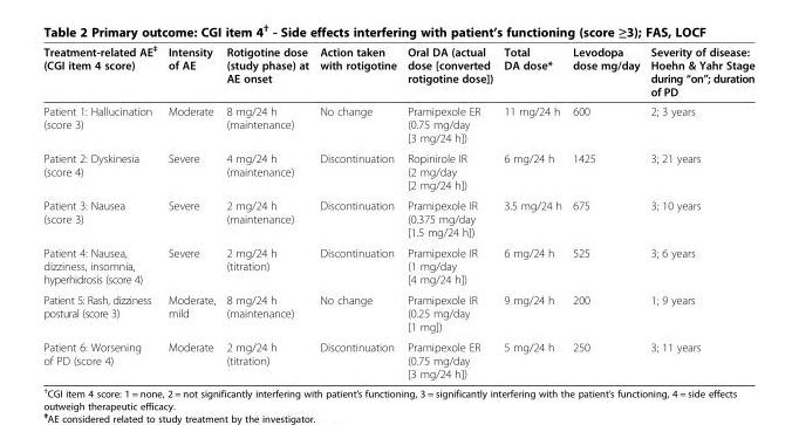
<table><thead><tr><td>Treatment-related AE<sup>‡</sup> (CGI item 4 score)</td><td>Intensity of AE</td><td>Rotigotine dose (study phase) at AE onset</td><td>Action taken with rotigotine</td><td>Oral DA (actual dose [converted rotigotine dose])</td><td>Total DA dose*</td><td>Levodopa dose mg/day</td><td>Severity of disease: Hoehn &amp; Yahr Stage during “on”; duration of PD</td></tr></thead><tbody><tr><td>Patient 1: Hallucination (score 3)</td><td>Moderate</td><td>8 mg/24 h (maintenance)</td><td>No change</td><td>Pramipexole ER (0.75 mg/day [3 mg/24 h])</td><td>11 mg/24 h</td><td>600</td><td>2; 3 years</td></tr><tr><td>Patient 2: Dyskinesia (score 4)</td><td>Severe</td><td>4 mg/24 h (maintenance)</td><td>Discontinuation</td><td>Ropinirole IR (2 mg/day [2 mg/24 h])</td><td>6 mg/24 h</td><td>1425</td><td>3; 21 years</td></tr><tr><td>Patient 3: Nausea (score 3)</td><td>Severe</td><td>2 mg/24 h (maintenance)</td><td>Discontinuation</td><td>Pramipexole IR (0.375 mg/day [1.5 mg/24 h])</td><td>3.5 mg/24 h</td><td>675</td><td>3; 10 years</td></tr><tr><td>Patient 4: Nausea, dizziness, insomnia, hyperhidrosis (score 4)</td><td>Severe</td><td>2 mg/24 h (titration)</td><td>Discontinuation</td><td>Pramipexole IR (1 mg/day [4 mg/24 h])</td><td>6 mg/24 h</td><td>525</td><td>3; 6 years</td></tr><tr><td>Patient 5: Rash, dizziness postural (score 3)</td><td>Moderate, mild</td><td>8 mg/24 h (maintenance)</td><td>No change</td><td>Pramipexole IR (0.25 mg/day [1 mg])</td><td>9 mg/24 h</td><td>200</td><td>1; 9 years</td></tr><tr><td>Patient 6: Worsening of PD (score 4)</td><td>Moderate</td><td>2 mg/24 h (titration)</td><td>Discontinuation</td><td>Pramipexole ER (0.75 mg/day [3 mg/24 h])</td><td>5 mg/24 h</td><td>250</td><td>3; 11 years</td></tr></tbody></table>